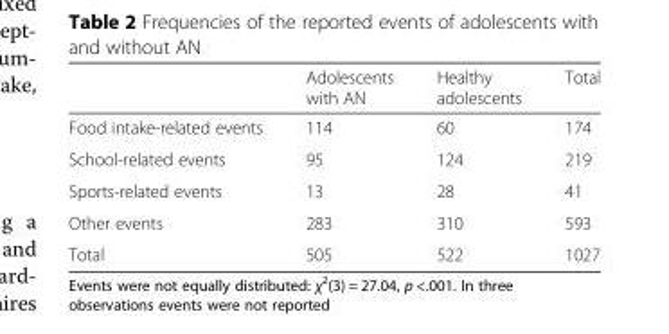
<table><thead><tr><td></td><td>Adolescents with AN</td><td>Healthy adolescents</td><td>Total</td></tr></thead><tbody><tr><td>Food intake-related events</td><td>114</td><td>60</td><td>174</td></tr><tr><td>School-related events</td><td>95</td><td>124</td><td>219</td></tr><tr><td>Sports-related events</td><td>13</td><td>28</td><td>41</td></tr><tr><td>Other events</td><td>283</td><td>310</td><td>593</td></tr><tr><td>Total</td><td>505</td><td>522</td><td>1027</td></tr></tbody></table>